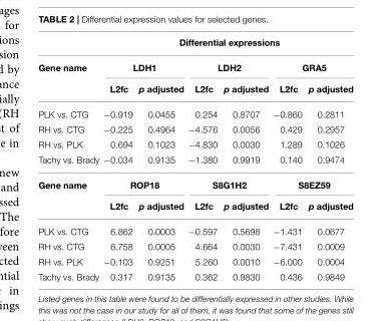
<table><thead><tr><td rowspan="3">Gene name</td><td colspan="6">Differential expressions</td></tr><tr><td colspan="2">LDH1</td><td colspan="2">LDH2</td><td colspan="2">GRA5</td></tr><tr><td>L2fc</td><td>p adjusted</td><td>L2fc</td><td>p adjusted</td><td>L2fc</td><td>p adjusted</td></tr></thead><tbody><tr><td>PLK vs. CTG</td><td>−0.919</td><td>0.0455</td><td>0.254</td><td>0.8707</td><td>−0.860</td><td>0.2811</td></tr><tr><td>RH vs. CTG</td><td>−0.225</td><td>0.4964</td><td>−4.576</td><td>0.0056</td><td>0.429</td><td>0.2957</td></tr><tr><td>RH vs. PLK</td><td>0.694</td><td>0.1023</td><td>−4.830</td><td>0.0030</td><td>1.289</td><td>0.1026</td></tr><tr><td>Tachy vs. Brady</td><td>−0.034</td><td>0.9135</td><td>−1.380</td><td>0.9919</td><td>0.140</td><td>0.9474</td></tr><tr><td rowspan="2">Gene name</td><td colspan="2">ROP18</td><td colspan="2">S8G1H2</td><td colspan="2">S8EZ59</td></tr><tr><td>L2fc</td><td>p adjusted</td><td>L2fc</td><td>p adjusted</td><td>L2fc</td><td>p adjusted</td></tr><tr><td>PLK vs. CTG</td><td>6.862</td><td>0.0003</td><td>−0.597</td><td>0.5698</td><td>−1.431</td><td>0.0677</td></tr><tr><td>RH vs. CTG</td><td>6.758</td><td>0.0005</td><td>4.664</td><td>0.0030</td><td>−7.431</td><td>0.0009</td></tr><tr><td>RH vs. PLK</td><td>−0.103</td><td>0.9251</td><td>5.260</td><td>0.0010</td><td>−6.000</td><td>0.0004</td></tr><tr><td>Tachy vs. Brady</td><td>0.317</td><td>0.9135</td><td>0.362</td><td>0.9830</td><td>0.436</td><td>0.9849</td></tr></tbody></table>